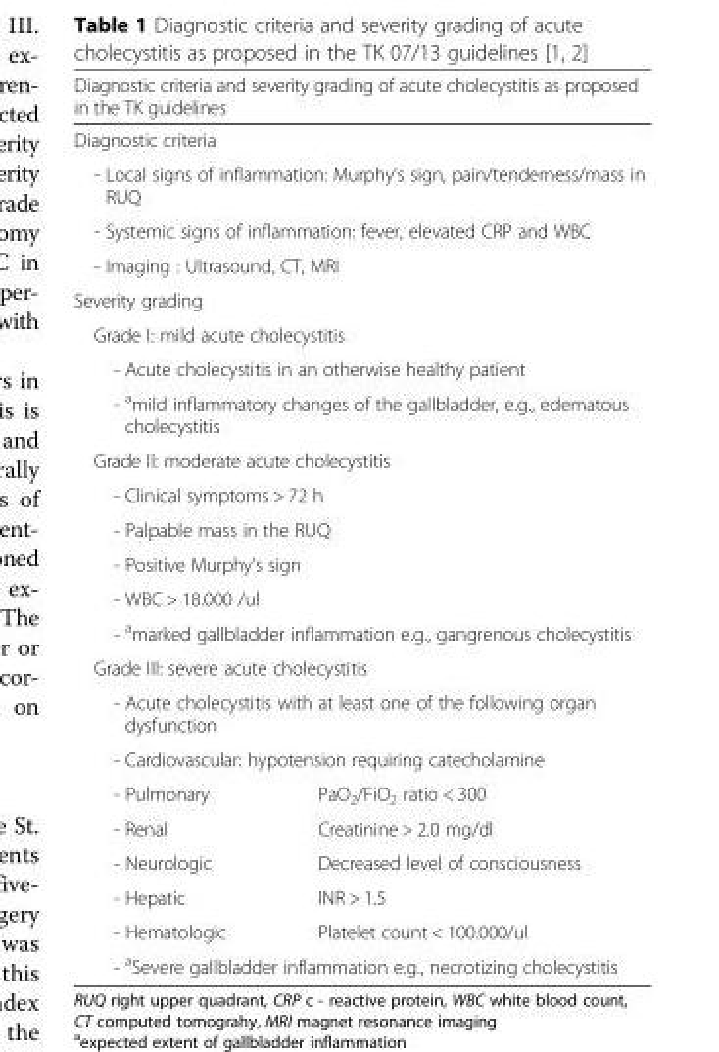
<table><thead><tr><td colspan="2">Diagnostic criteria and severity grading of acute cholecystitis as proposed in the TK guidelines</td></tr></thead><tbody><tr><td colspan="2">Diagnostic criteria</td></tr><tr><td colspan="2">- Local signs of inflammation: Murphy’s sign, pain/tenderness/mass in RUQ</td></tr><tr><td colspan="2">- Systemic signs of inflammation: fever, elevated CRP and WBC</td></tr><tr><td colspan="2">- Imaging : Ultrasound, CT, MRI</td></tr><tr><td colspan="2">Severity grading</td></tr><tr><td colspan="2">Grade I: mild acute cholecystitis</td></tr><tr><td colspan="2">- Acute cholecystitis in an otherwise healthy patient</td></tr><tr><td colspan="2">- <sup>a</sup>mild inflammatory changes of the gallbladder, e.g., edematous cholecystitis</td></tr><tr><td colspan="2">Grade II: moderate acute cholecystitis</td></tr><tr><td colspan="2">- Clinical symptoms &gt; 72 h</td></tr><tr><td colspan="2">- Palpable mass in the RUQ</td></tr><tr><td colspan="2">- Positive Murphy’s sign</td></tr><tr><td colspan="2">- WBC &gt; 18.000 /ul</td></tr><tr><td colspan="2">- <sup>a</sup>marked gallbladder inflammation e.g., gangrenous cholecystitis</td></tr><tr><td colspan="2">Grade III: severe acute cholecystitis</td></tr><tr><td colspan="2">- Acute cholecystitis with at least one of the following organ dysfunction</td></tr><tr><td colspan="2">- Cardiovascular: hypotension requiring catecholamine</td></tr><tr><td>- Pulmonary</td><td>PaO<sub>2</sub>/FiO<sub>2</sub> ratio &lt; 300</td></tr><tr><td>- Renal</td><td>Creatinine &gt; 2.0 mg/dl</td></tr><tr><td>- Neurologic</td><td>Decreased level of consciousness</td></tr><tr><td>- Hepatic</td><td>INR &gt; 1.5</td></tr><tr><td>- Hematologic</td><td>Platelet count &lt; 100.000/ul</td></tr><tr><td colspan="2">- <sup>a</sup>Severe gallbladder inflammation e.g., necrotizing cholecystitis</td></tr></tbody></table>